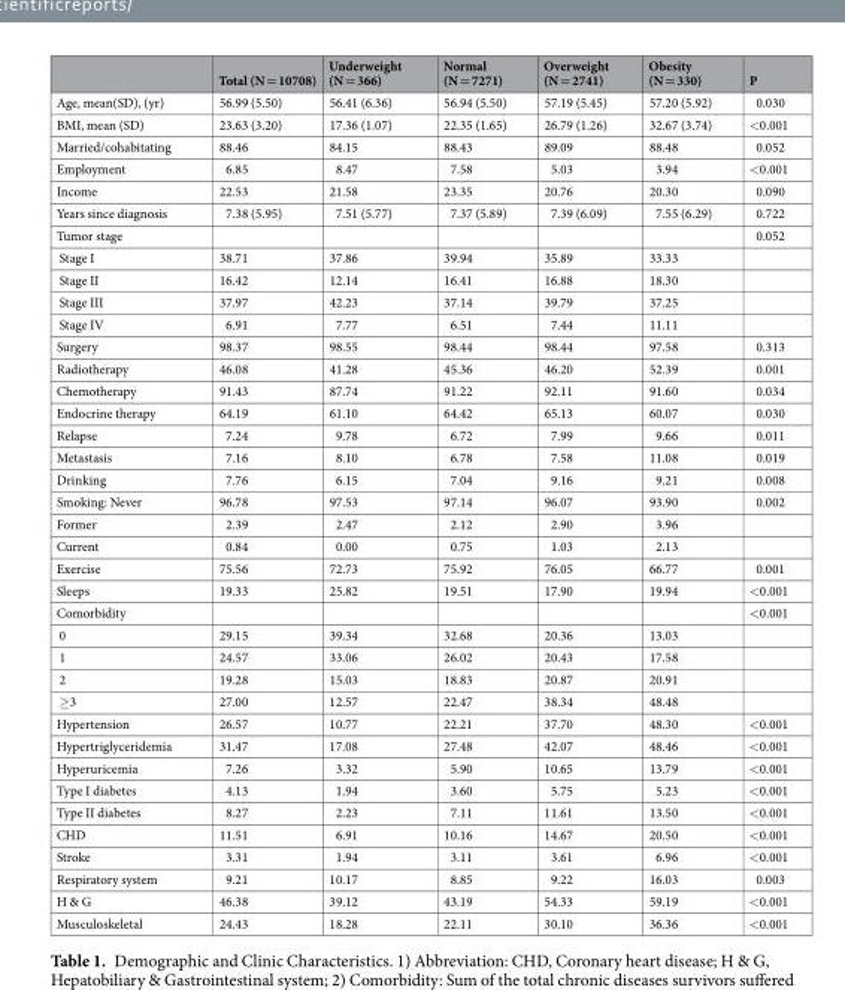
<table><thead><tr><td></td><td>Total (N = 10708)</td><td>Underweight (N = 366)</td><td>Normal (N = 7271)</td><td>Overweight (N = 2741)</td><td>Obesity (N = 330)</td><td>P</td></tr></thead><tbody><tr><td>Age, mean(SD), (yr)</td><td>56.99 (5.50)</td><td>56.41 (6.36)</td><td>56.94 (5.50)</td><td>57.19 (5.45)</td><td>57.20 (5.92)</td><td>0.030</td></tr><tr><td>BMI, mean (SD)</td><td>23.63 (3.20)</td><td>17.36 (1.07)</td><td>22.35 (1.65)</td><td>26.79 (1.26)</td><td>32.67 (3.74)</td><td>&lt;0.001</td></tr><tr><td>Married/cohabitating</td><td>88.46</td><td>84.15</td><td>88.43</td><td>89.09</td><td>88.48</td><td>0.052</td></tr><tr><td>Employment</td><td>6.85</td><td>8.47</td><td>7.58</td><td>5.03</td><td>3.94</td><td>&lt;0.001</td></tr><tr><td>Income</td><td>22.53</td><td>21.58</td><td>23.35</td><td>20.76</td><td>20.30</td><td>0.090</td></tr><tr><td>Years since diagnosis</td><td>7.38 (5.95)</td><td>7.51 (5.77)</td><td>7.37 (5.89)</td><td>7.39 (6.09)</td><td>7.55 (6.29)</td><td>0.722</td></tr><tr><td>Tumor stage</td><td></td><td></td><td></td><td></td><td></td><td>0.052</td></tr><tr><td>Stage I</td><td>38.71</td><td>37.86</td><td>39.94</td><td>35.89</td><td>33.33</td><td></td></tr><tr><td>Stage II</td><td>16.42</td><td>12.14</td><td>16.41</td><td>16.88</td><td>18.30</td><td></td></tr><tr><td>Stage III</td><td>37.97</td><td>42.23</td><td>37.14</td><td>39.79</td><td>37.25</td><td></td></tr><tr><td>Stage IV</td><td>6.91</td><td>7.77</td><td>6.51</td><td>7.44</td><td>11.11</td><td></td></tr><tr><td>Surgery</td><td>98.37</td><td>98.55</td><td>98.44</td><td>98.44</td><td>97.58</td><td>0.313</td></tr><tr><td>Radiotherapy</td><td>46.08</td><td>41.28</td><td>45.36</td><td>46.20</td><td>52.39</td><td>0.001</td></tr><tr><td>Chemotherapy</td><td>91.43</td><td>87.74</td><td>91.22</td><td>92.11</td><td>91.60</td><td>0.034</td></tr><tr><td>Endocrine therapy</td><td>64.19</td><td>61.10</td><td>64.42</td><td>65.13</td><td>60.07</td><td>0.030</td></tr><tr><td>Relapse</td><td>7.24</td><td>9.78</td><td>6.72</td><td>7.99</td><td>9.66</td><td>0.011</td></tr><tr><td>Metastasis</td><td>7.16</td><td>8.10</td><td>6.78</td><td>7.58</td><td>11.08</td><td>0.019</td></tr><tr><td>Drinking</td><td>7.76</td><td>6.15</td><td>7.04</td><td>9.16</td><td>9.21</td><td>0.008</td></tr><tr><td>Smoking: Never</td><td>96.78</td><td>97.53</td><td>97.14</td><td>96.07</td><td>93.90</td><td>0.002</td></tr><tr><td>Former</td><td>2.39</td><td>2.47</td><td>2.12</td><td>2.90</td><td>3.96</td><td></td></tr><tr><td>Current</td><td>0.84</td><td>0.00</td><td>0.75</td><td>1.03</td><td>2.13</td><td></td></tr><tr><td>Exercise</td><td>75.56</td><td>72.73</td><td>75.92</td><td>76.05</td><td>66.77</td><td>0.001</td></tr><tr><td>Sleeps</td><td>19.33</td><td>25.82</td><td>19.51</td><td>17.90</td><td>19.94</td><td>&lt;0.001</td></tr><tr><td>Comorbidity</td><td></td><td></td><td></td><td></td><td></td><td>&lt;0.001</td></tr><tr><td>0</td><td>29.15</td><td>39.34</td><td>32.68</td><td>20.36</td><td>13.03</td><td></td></tr><tr><td>1</td><td>24.57</td><td>33.06</td><td>26.02</td><td>20.43</td><td>17.58</td><td></td></tr><tr><td>2</td><td>19.28</td><td>15.03</td><td>18.83</td><td>20.87</td><td>20.91</td><td></td></tr><tr><td>≥3</td><td>27.00</td><td>12.57</td><td>22.47</td><td>38.34</td><td>48.48</td><td></td></tr><tr><td>Hypertension</td><td>26.57</td><td>10.77</td><td>22.21</td><td>37.70</td><td>48.30</td><td>&lt;0.001</td></tr><tr><td>Hypertriglyceridemia</td><td>31.47</td><td>17.08</td><td>27.48</td><td>42.07</td><td>48.46</td><td>&lt;0.001</td></tr><tr><td>Hyperuricemia</td><td>7.26</td><td>3.32</td><td>5.90</td><td>10.65</td><td>13.79</td><td>&lt;0.001</td></tr><tr><td>Type I diabetes</td><td>4.13</td><td>1.94</td><td>3.60</td><td>5.75</td><td>5.23</td><td>&lt;0.001</td></tr><tr><td>Type II diabetes</td><td>8.27</td><td>2.23</td><td>7.11</td><td>11.61</td><td>13.50</td><td>&lt;0.001</td></tr><tr><td>CHD</td><td>11.51</td><td>6.91</td><td>10.16</td><td>14.67</td><td>20.50</td><td>&lt;0.001</td></tr><tr><td>Stroke</td><td>3.31</td><td>1.94</td><td>3.11</td><td>3.61</td><td>6.96</td><td>&lt;0.001</td></tr><tr><td>Respiratory system</td><td>9.21</td><td>10.17</td><td>8.85</td><td>9.22</td><td>16.03</td><td>0.003</td></tr><tr><td>H &amp; G</td><td>46.38</td><td>39.12</td><td>43.19</td><td>54.33</td><td>59.19</td><td>&lt;0.001</td></tr><tr><td>Musculoskeletal</td><td>24.43</td><td>18.28</td><td>22.11</td><td>30.10</td><td>36.36</td><td>&lt;0.001</td></tr></tbody></table>